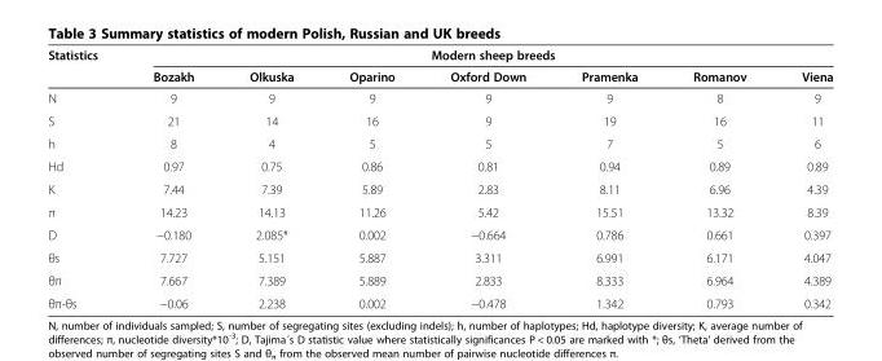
<table><thead><tr><td rowspan="2">Statistics</td><td colspan="7">Modern sheep breeds</td></tr><tr><td>Bozakh</td><td>Olkuska</td><td>Oparino</td><td>Oxford Down</td><td>Pramenka</td><td>Romanov</td><td>Viena</td></tr></thead><tbody><tr><td>N</td><td>9</td><td>9</td><td>9</td><td>9</td><td>9</td><td>8</td><td>9</td></tr><tr><td>S</td><td>21</td><td>14</td><td>16</td><td>9</td><td>19</td><td>16</td><td>11</td></tr><tr><td>h</td><td>8</td><td>4</td><td>5</td><td>5</td><td>7</td><td>5</td><td>6</td></tr><tr><td>Hd</td><td>0.97</td><td>0.75</td><td>0.86</td><td>0.81</td><td>0.94</td><td>0.89</td><td>0.89</td></tr><tr><td>K</td><td>7.44</td><td>7.39</td><td>5.89</td><td>2.83</td><td>8.11</td><td>6.96</td><td>4.39</td></tr><tr><td>π</td><td>14.23</td><td>14.13</td><td>11.26</td><td>5.42</td><td>15.51</td><td>13.32</td><td>8.39</td></tr><tr><td>D</td><td>−0.180</td><td>2.085*</td><td>0.002</td><td>−0.664</td><td>0.786</td><td>0.661</td><td>0.397</td></tr><tr><td>θs</td><td>7.727</td><td>5.151</td><td>5.887</td><td>3.311</td><td>6.991</td><td>6.171</td><td>4.047</td></tr><tr><td>θπ</td><td>7.667</td><td>7.389</td><td>5.889</td><td>2.833</td><td>8.333</td><td>6.964</td><td>4.389</td></tr><tr><td>θπ-θs</td><td>−0.06</td><td>2.238</td><td>0.002</td><td>−0.478</td><td>1.342</td><td>0.793</td><td>0.342</td></tr></tbody></table>